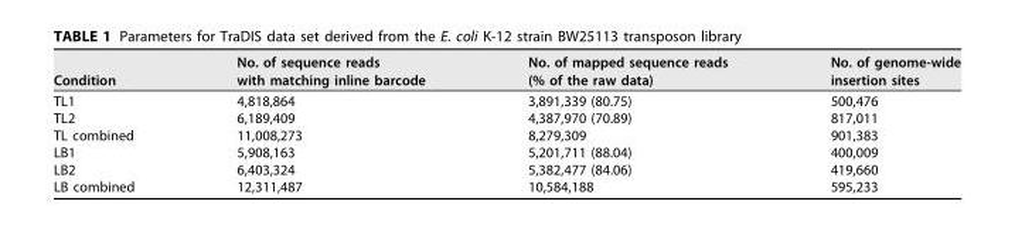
<table><thead><tr><td>Condition</td><td>No. of sequence reads with matching inline barcode</td><td>No. of mapped sequence reads (% of the raw data)</td><td>No. of genome-wide insertion sites</td></tr></thead><tbody><tr><td>TL1</td><td>4,818,864</td><td>3,891,339 (80.75)</td><td>500,476</td></tr><tr><td>TL2</td><td>6,189,409</td><td>4,387,970 (70.89)</td><td>817,011</td></tr><tr><td>TL combined</td><td>11,008,273</td><td>8,279,309</td><td>901,383</td></tr><tr><td>LB1</td><td>5,908,163</td><td>5,201,711 (88.04)</td><td>400,009</td></tr><tr><td>LB2</td><td>6,403,324</td><td>5,382,477 (84.06)</td><td>419,660</td></tr><tr><td>LB combined</td><td>12,311,487</td><td>10,584,188</td><td>595,233</td></tr></tbody></table>